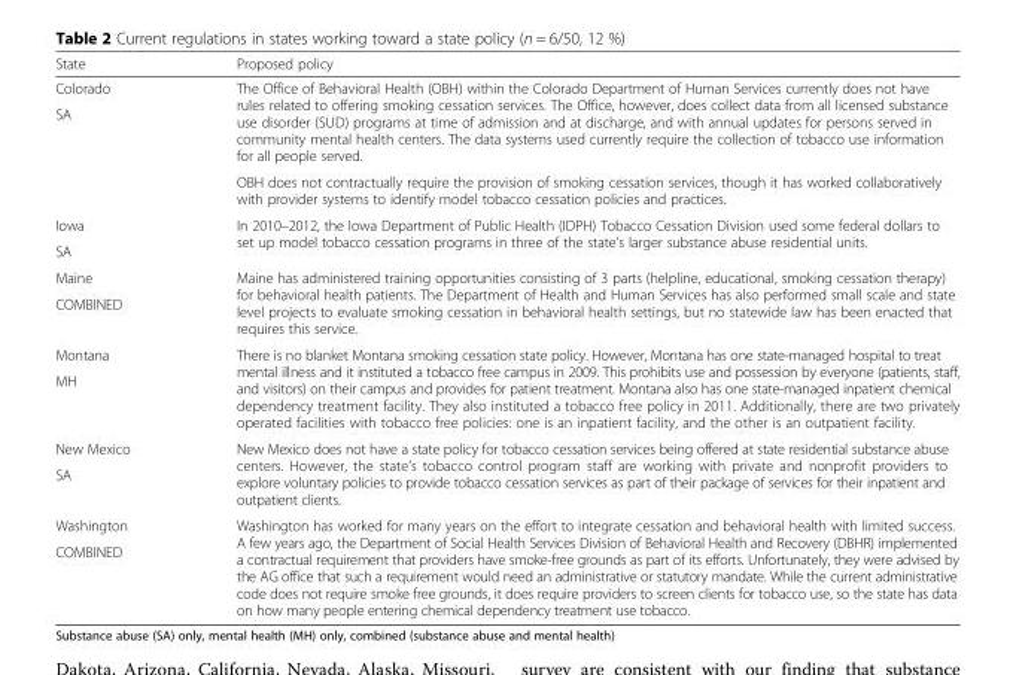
<table><thead><tr><td>State</td><td>Proposed policy</td></tr></thead><tbody><tr><td>Colorado</td><td rowspan="2">The Office of Behavioral Health (OBH) within the Colorado Department of Human Services currently does not have rules related to offering smoking cessation services. The Office, however, does collect data from all licensed substance use disorder (SUD) programs at time of admission and at discharge, and with annual updates for persons served in community mental health centers. The data systems used currently require the collection of tobacco use information for all people served.</td></tr><tr><td rowspan="2">SA</td></tr><tr><td>OBH does not contractually require the provision of smoking cessation services, though it has worked collaboratively with provider systems to identify model tobacco cessation policies and practices.</td></tr><tr><td>Iowa</td><td rowspan="2">In 2010–2012, the Iowa Department of Public Health (IDPH) Tobacco Cessation Division used some federal dollars to set up model tobacco cessation programs in three of the state&#x27;s larger substance abuse residential units.</td></tr><tr><td>SA</td></tr><tr><td>Maine</td><td rowspan="2">Maine has administered training opportunities consisting of 3 parts (helpline, educational, smoking cessation therapy) for behavioral health patients. The Department of Health and Human Services has also performed small scale and state level projects to evaluate smoking cessation in behavioral health settings, but no statewide law has been enacted that requires this service.</td></tr><tr><td>COMBINED</td></tr><tr><td>Montana</td><td rowspan="2">There is no blanket Montana smoking cessation state policy. However, Montana has one state-managed hospital to treat mental illness and it instituted a tobacco free campus in 2009. This prohibits use and possession by everyone (patients, staff, and visitors) on their campus and provides for patient treatment. Montana also has one state-managed inpatient chemical dependency treatment facility. They also instituted a tobacco free policy in 2011. Additionally, there are two privately operated facilities with tobacco free policies: one is an inpatient facility, and the other is an outpatient facility.</td></tr><tr><td>MH</td></tr><tr><td>New Mexico</td><td rowspan="2">New Mexico does not have a state policy for tobacco cessation services being offered at state residential substance abuse centers. However, the state’s tobacco control program staff are working with private and nonprofit providers to explore voluntary policies to provide tobacco cessation services as part of their package of services for their inpatient and outpatient clients.</td></tr><tr><td>SA</td></tr><tr><td>Washington</td><td rowspan="2">Washington has worked for many years on the effort to integrate cessation and behavioral health with limited success. A few years ago, the Department of Social Health Services Division of Behavioral Health and Recovery (DBHR) implemented a contractual requirement that providers have smoke-free grounds as part of its efforts. Unfortunately, they were advised by the AG office that such a requirement would need an administrative or statutory mandate. While the current administrative code does not require smoke free grounds, it does require providers to screen clients for tobacco use, so the state has data on how many people entering chemical dependency treatment use tobacco.</td></tr><tr><td>COMBINED</td></tr></tbody></table>